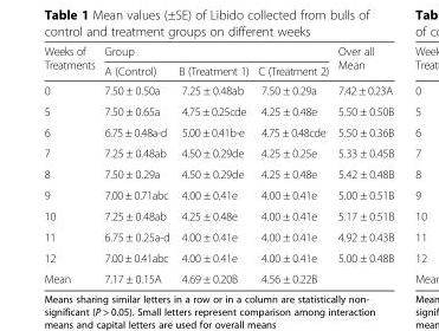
<table><thead><tr><td rowspan="2">Weeks of Treatments</td><td colspan="3">Group</td><td rowspan="2">Over all Mean</td></tr><tr><td>A (Control)</td><td>B (Treatment 1)</td><td>C (Treatment 2)</td></tr></thead><tbody><tr><td>0</td><td>7.50 ± 0.50a</td><td>7.25 ± 0.48ab</td><td>7.50 ± 0.29a</td><td>7.42 ± 0.23A</td></tr><tr><td>5</td><td>7.50 ± 0.65a</td><td>4.75 ± 0.25cde</td><td>4.25 ± 0.48e</td><td>5.50 ± 0.50B</td></tr><tr><td>6</td><td>6.75 ± 0.48a-d</td><td>5.00 ± 0.41b-e</td><td>4.75 ± 0.48cde</td><td>5.50 ± 0.36B</td></tr><tr><td>7</td><td>7.25 ± 0.48ab</td><td>4.50 ± 0.29de</td><td>4.25 ± 0.25e</td><td>5.33 ± 0.45B</td></tr><tr><td>8</td><td>7.50 ± 0.29a</td><td>4.50 ± 0.29de</td><td>4.25 ± 0.48e</td><td>5.42 ± 0.48B</td></tr><tr><td>9</td><td>7.00 ± 0.71abc</td><td>4.00 ± 0.41e</td><td>4.00 ± 0.41e</td><td>5.00 ± 0.51B</td></tr><tr><td>10</td><td>7.25 ± 0.48ab</td><td>4.25 ± 0.48e</td><td>4.00 ± 0.41e</td><td>5.17 ± 0.51B</td></tr><tr><td>11</td><td>6.75 ± 0.25a-d</td><td>4.00 ± 0.41e</td><td>4.00 ± 0.41e</td><td>4.92 ± 0.43B</td></tr><tr><td>12</td><td>7.00 ± 0.41abc</td><td>4.00 ± 0.41e</td><td>4.00 ± 0.41e</td><td>5.00 ± 0.48B</td></tr><tr><td>Mean</td><td>7.17 ± 0.15A</td><td>4.69 ± 0.20B</td><td>4.56 ± 0.22B</td><td></td></tr></tbody></table>